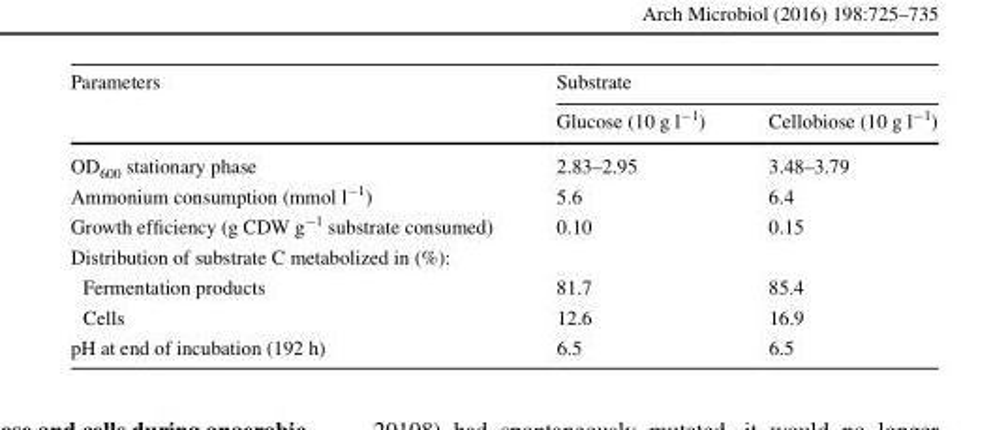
<table><thead><tr><td rowspan="2">Parameters</td><td colspan="2">Substrate</td></tr><tr><td>Glucose (10 g l<sup>−1</sup>)</td><td>Cellobiose (10 g l<sup>−1</sup>)</td></tr></thead><tbody><tr><td>OD<sub>600</sub> stationary phase</td><td>2.83–2.95</td><td>3.48–3.79</td></tr><tr><td>Ammonium consumption (mmol l<sup>−1</sup>)</td><td>5.6</td><td>6.4</td></tr><tr><td>Growth efficiency (g CDW g<sup>−1</sup> substrate consumed)</td><td>0.10</td><td>0.15</td></tr><tr><td colspan="3">Distribution of substrate C metabolized in (%):</td></tr><tr><td>Fermentation products</td><td>81.7</td><td>85.4</td></tr><tr><td>Cells</td><td>12.6</td><td>16.9</td></tr><tr><td>pH at end of incubation (192 h)</td><td>6.5</td><td>6.5</td></tr></tbody></table>